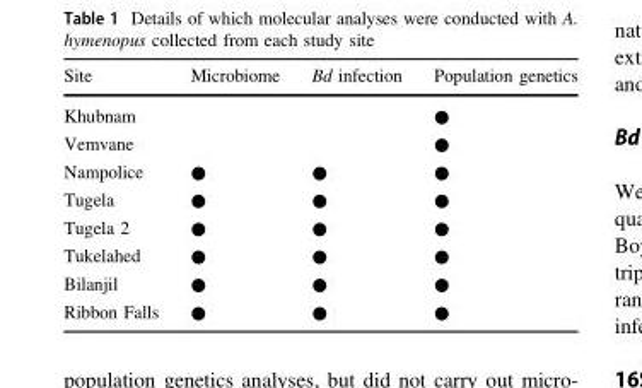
<table><thead><tr><td>Site</td><td>Microbiome</td><td>Bd infection</td><td>Population genetics</td></tr></thead><tbody><tr><td>Khubnam</td><td></td><td></td><td>●</td></tr><tr><td>Vemvane</td><td></td><td></td><td>●</td></tr><tr><td>Nampolice</td><td>●</td><td>●</td><td>●</td></tr><tr><td>Tugela</td><td>●</td><td>●</td><td>●</td></tr><tr><td>Tugela 2</td><td>●</td><td>●</td><td>●</td></tr><tr><td>Tukelahed</td><td>●</td><td>●</td><td>●</td></tr><tr><td>Bilanjil</td><td>●</td><td>●</td><td>●</td></tr><tr><td>Ribbon Falls</td><td>●</td><td>●</td><td>●</td></tr></tbody></table>